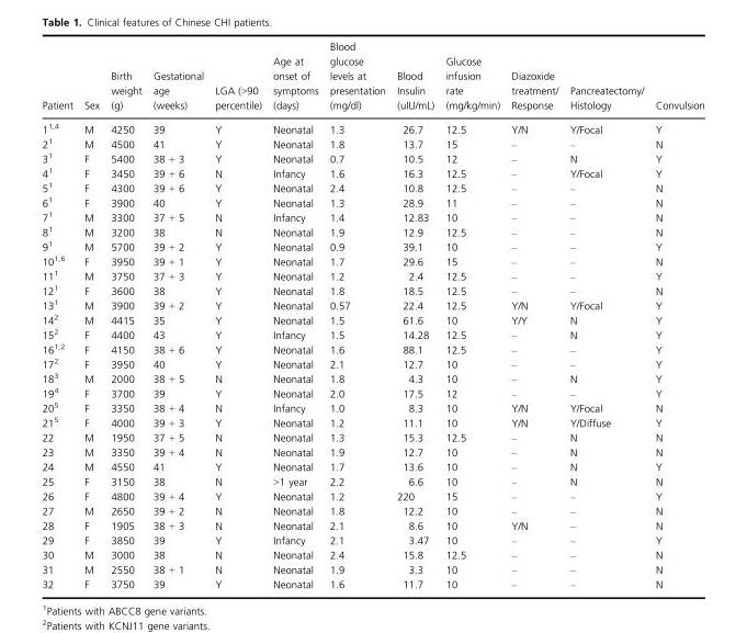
<table><thead><tr><td>Patient</td><td>Sex</td><td>Birth weight (g)</td><td>Gestational age (weeks)</td><td>LGA (&gt;90 percentile)</td><td>Age at onset of symptoms (days)</td><td>Blood glucose levels at presentation (mg/dl)</td><td>Blood Insulin (uIU/mL)</td><td>Glucose infusion rate (mg/kg/min)</td><td>Diazoxide treatment/ Response</td><td>Pancreatectomy/ Histology</td><td>Convulsion</td></tr></thead><tbody><tr><td>11,4</td><td>M</td><td>4250</td><td>39</td><td>Y</td><td>Neonatal</td><td>1.3</td><td>26.7</td><td>12.5</td><td>Y/N</td><td>Y/Focal</td><td>Y</td></tr><tr><td>21</td><td>M</td><td>4500</td><td>41</td><td>Y</td><td>Neonatal</td><td>1.8</td><td>13.7</td><td>15</td><td>–</td><td>–</td><td>N</td></tr><tr><td>31</td><td>F</td><td>5400</td><td>38 + 3</td><td>Y</td><td>Neonatal</td><td>0.7</td><td>10.5</td><td>12</td><td>–</td><td>N</td><td>Y</td></tr><tr><td>41</td><td>F</td><td>3450</td><td>39 + 6</td><td>N</td><td>Infancy</td><td>1.6</td><td>16.3</td><td>12.5</td><td>–</td><td>Y/Focal</td><td>Y</td></tr><tr><td>51</td><td>F</td><td>4300</td><td>39 + 6</td><td>Y</td><td>Neonatal</td><td>2.4</td><td>10.8</td><td>12.5</td><td>–</td><td>–</td><td>N</td></tr><tr><td>61</td><td>F</td><td>3900</td><td>40</td><td>Y</td><td>Neonatal</td><td>1.3</td><td>28.9</td><td>11</td><td>–</td><td>–</td><td>N</td></tr><tr><td>71</td><td>M</td><td>3300</td><td>37 + 5</td><td>N</td><td>Infancy</td><td>1.4</td><td>12.83</td><td>10</td><td>–</td><td>–</td><td>N</td></tr><tr><td>81</td><td>M</td><td>3200</td><td>38</td><td>N</td><td>Neonatal</td><td>1.9</td><td>12.9</td><td>12.5</td><td>–</td><td>–</td><td>N</td></tr><tr><td>91</td><td>M</td><td>5700</td><td>39 + 2</td><td>Y</td><td>Neonatal</td><td>0.9</td><td>39.1</td><td>10</td><td>–</td><td>–</td><td>Y</td></tr><tr><td>101,6</td><td>F</td><td>3950</td><td>39 + 1</td><td>Y</td><td>Neonatal</td><td>1.7</td><td>29.6</td><td>15</td><td>–</td><td>–</td><td>N</td></tr><tr><td>111</td><td>M</td><td>3750</td><td>37 + 3</td><td>Y</td><td>Neonatal</td><td>1.2</td><td>2.4</td><td>12.5</td><td>–</td><td>–</td><td>Y</td></tr><tr><td>121</td><td>F</td><td>3600</td><td>38</td><td>Y</td><td>Neonatal</td><td>1.8</td><td>18.5</td><td>12.5</td><td>–</td><td>–</td><td>N</td></tr><tr><td>131</td><td>M</td><td>3900</td><td>39 + 2</td><td>Y</td><td>Neonatal</td><td>0.57</td><td>22.4</td><td>12.5</td><td>Y/N</td><td>Y/Focal</td><td>Y</td></tr><tr><td>142</td><td>M</td><td>4415</td><td>35</td><td>Y</td><td>Neonatal</td><td>1.5</td><td>61.6</td><td>10</td><td>Y/Y</td><td>N</td><td>Y</td></tr><tr><td>152</td><td>F</td><td>4400</td><td>43</td><td>Y</td><td>Infancy</td><td>1.5</td><td>14.28</td><td>12.5</td><td>–</td><td>N</td><td>Y</td></tr><tr><td>161,2</td><td>F</td><td>4150</td><td>38 + 6</td><td>Y</td><td>Neonatal</td><td>1.6</td><td>88.1</td><td>12.5</td><td>–</td><td>–</td><td>Y</td></tr><tr><td>172</td><td>F</td><td>3950</td><td>40</td><td>Y</td><td>Neonatal</td><td>2.1</td><td>12.7</td><td>10</td><td>–</td><td>–</td><td>Y</td></tr><tr><td>183</td><td>M</td><td>2000</td><td>38 + 5</td><td>N</td><td>Neonatal</td><td>1.8</td><td>4.3</td><td>10</td><td>–</td><td>N</td><td>Y</td></tr><tr><td>194</td><td>F</td><td>3700</td><td>39</td><td>Y</td><td>Neonatal</td><td>2.0</td><td>17.5</td><td>12</td><td>–</td><td>–</td><td>Y</td></tr><tr><td>205</td><td>F</td><td>3350</td><td>38 + 4</td><td>N</td><td>Infancy</td><td>1.0</td><td>8.3</td><td>10</td><td>Y/N</td><td>Y/Focal</td><td>N</td></tr><tr><td>215</td><td>F</td><td>4000</td><td>39 + 3</td><td>Y</td><td>Neonatal</td><td>1.2</td><td>11.1</td><td>10</td><td>Y/N</td><td>Y/Diffuse</td><td>Y</td></tr><tr><td>22</td><td>M</td><td>1950</td><td>37 + 5</td><td>N</td><td>Neonatal</td><td>1.3</td><td>15.3</td><td>12.5</td><td>–</td><td>N</td><td>N</td></tr><tr><td>23</td><td>M</td><td>3350</td><td>39 + 4</td><td>N</td><td>Neonatal</td><td>1.9</td><td>12.7</td><td>10</td><td>–</td><td>N</td><td>N</td></tr><tr><td>24</td><td>M</td><td>4550</td><td>41</td><td>Y</td><td>Neonatal</td><td>1.7</td><td>13.6</td><td>10</td><td>–</td><td>N</td><td>Y</td></tr><tr><td>25</td><td>F</td><td>3150</td><td>38</td><td>N</td><td>&gt;1 year</td><td>2.2</td><td>6.6</td><td>10</td><td>–</td><td>N</td><td>N</td></tr><tr><td>26</td><td>F</td><td>4800</td><td>39 + 4</td><td>Y</td><td>Neonatal</td><td>1.2</td><td>220</td><td>15</td><td>–</td><td>–</td><td>Y</td></tr><tr><td>27</td><td>M</td><td>2650</td><td>39 + 2</td><td>N</td><td>Neonatal</td><td>1.8</td><td>12.2</td><td>10</td><td>–</td><td>–</td><td>N</td></tr><tr><td>28</td><td>F</td><td>1905</td><td>38 + 3</td><td>N</td><td>Neonatal</td><td>2.1</td><td>8.6</td><td>10</td><td>Y/N</td><td>–</td><td>N</td></tr><tr><td>29</td><td>F</td><td>3850</td><td>39</td><td>Y</td><td>Infancy</td><td>2.1</td><td>3.47</td><td>10</td><td>–</td><td>–</td><td>Y</td></tr><tr><td>30</td><td>M</td><td>3000</td><td>38</td><td>N</td><td>Neonatal</td><td>2.4</td><td>15.8</td><td>12.5</td><td>–</td><td>–</td><td>N</td></tr><tr><td>31</td><td>M</td><td>2550</td><td>38 + 1</td><td>N</td><td>Neonatal</td><td>1.9</td><td>3.3</td><td>10</td><td>–</td><td>–</td><td>N</td></tr><tr><td>32</td><td>F</td><td>3750</td><td>39</td><td>Y</td><td>Neonatal</td><td>1.6</td><td>11.7</td><td>10</td><td>–</td><td>–</td><td>N</td></tr></tbody></table>